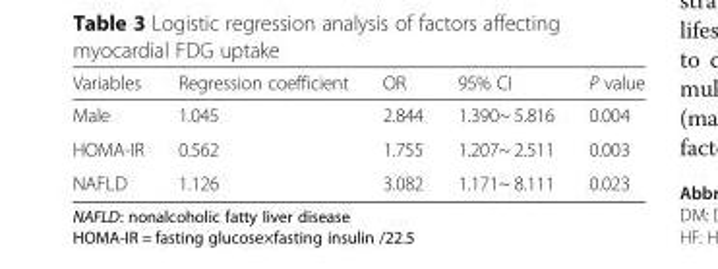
<table><thead><tr><td>Variables</td><td>Regression coefficient</td><td>OR</td><td>95% CI</td><td>P value</td></tr></thead><tbody><tr><td>Male</td><td>1.045</td><td>2.844</td><td>1.390~ 5.816</td><td>0.004</td></tr><tr><td>HOMA-IR</td><td>0.562</td><td>1.755</td><td>1.207~ 2.511</td><td>0.003</td></tr><tr><td>NAFLD</td><td>1.126</td><td>3.082</td><td>1.171~ 8.111</td><td>0.023</td></tr></tbody></table>